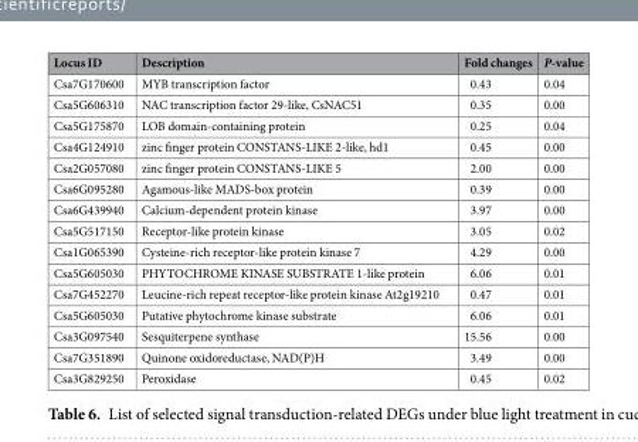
<table><thead><tr><td>Locus ID</td><td>Description</td><td>Fold changes</td><td>P-value</td></tr></thead><tbody><tr><td>Csa7G170600</td><td>MYB transcription factor</td><td>0.43</td><td>0.04</td></tr><tr><td>Csa5G606310</td><td>NAC transcription factor 29-like, CsNAC51</td><td>0.35</td><td>0.00</td></tr><tr><td>Csa5G175870</td><td>LOB domain-containing protein</td><td>0.25</td><td>0.04</td></tr><tr><td>Csa4G124910</td><td>zinc finger protein CONSTANS-LIKE 2-like, hd1</td><td>0.45</td><td>0.00</td></tr><tr><td>Csa2G057080</td><td>zinc finger protein CONSTANS-LIKE 5</td><td>2.00</td><td>0.00</td></tr><tr><td>Csa6G095280</td><td>Agamous-like MADS-box protein</td><td>0.39</td><td>0.00</td></tr><tr><td>Csa6G439940</td><td>Calcium-dependent protein kinase</td><td>3.97</td><td>0.00</td></tr><tr><td>Csa5G517150</td><td>Receptor-like protein kinase</td><td>3.05</td><td>0.02</td></tr><tr><td>Csa1G065390</td><td>Cysteine-rich receptor-like protein kinase 7</td><td>4.29</td><td>0.00</td></tr><tr><td>Csa5G605030</td><td>PHYTOCHROME KINASE SUBSTRATE 1-like protein</td><td>6.06</td><td>0.01</td></tr><tr><td>Csa7G452270</td><td>Leucine-rich repeat receptor-like protein kinase At2g19210</td><td>0.47</td><td>0.01</td></tr><tr><td>Csa5G605030</td><td>Putative phytochrome kinase substrate</td><td>6.06</td><td>0.01</td></tr><tr><td>Csa3G097540</td><td>Sesquiterpene synthase</td><td>15.56</td><td>0.00</td></tr><tr><td>Csa7G351890</td><td>Quinone oxidoreductase, NAD(P)H</td><td>3.49</td><td>0.00</td></tr><tr><td>Csa3G829250</td><td>Peroxidase</td><td>0.45</td><td>0.02</td></tr></tbody></table>